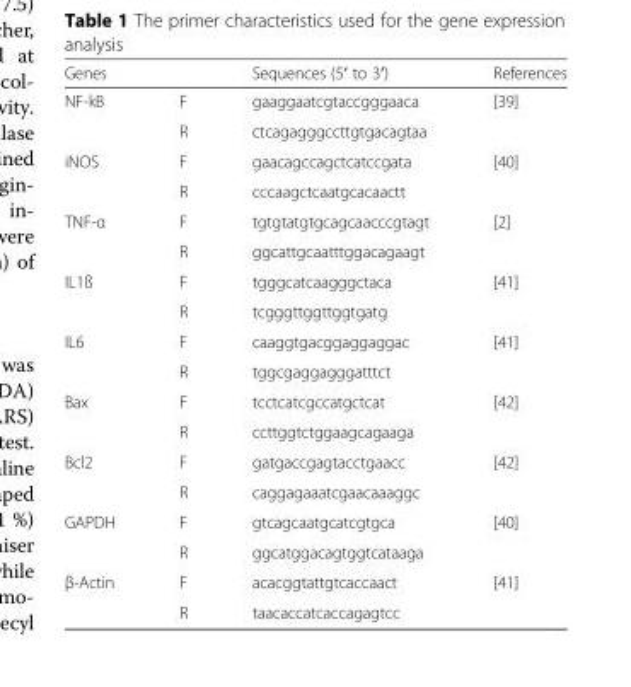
<table><thead><tr><td>Genes</td><td></td><td>Sequences (5′ to 3′)</td><td>References</td></tr></thead><tbody><tr><td rowspan="2">NF-kB</td><td>F</td><td>gaaggaatcgtaccgggaaca</td><td rowspan="2">[39]</td></tr><tr><td>R</td><td>ctcagagggccttgtgacagtaa</td></tr><tr><td rowspan="2">iNOS</td><td>F</td><td>gaacagccagctcatccgata</td><td rowspan="2">[40]</td></tr><tr><td>R</td><td>cccaagctcaatgcacaactt</td></tr><tr><td rowspan="2">TNF-α</td><td>F</td><td>tgtgtatgtgcagcaacccgtagt</td><td rowspan="2">[2]</td></tr><tr><td>R</td><td>ggcattgcaatttggacagaagt</td></tr><tr><td rowspan="2">IL1ß</td><td>F</td><td>tgggcatcaagggctaca</td><td rowspan="2">[41]</td></tr><tr><td>R</td><td>tcgggttggttggtgatg</td></tr><tr><td rowspan="2">IL6</td><td>F</td><td>caaggtgacggaggaggac</td><td rowspan="2">[41]</td></tr><tr><td>R</td><td>tggcgaggagggatttct</td></tr><tr><td rowspan="2">Bax</td><td>F</td><td>tcctcatcgccatgctcat</td><td rowspan="2">[42]</td></tr><tr><td>R</td><td>ccttggtctggaagcagaaga</td></tr><tr><td rowspan="2">Bcl2</td><td>F</td><td>gatgaccgagtacctgaacc</td><td rowspan="2">[42]</td></tr><tr><td>R</td><td>caggagaaatcgaacaaaggc</td></tr><tr><td rowspan="2">GAPDH</td><td>F</td><td>gtcagcaatgcatcgtgca</td><td rowspan="2">[40]</td></tr><tr><td>R</td><td>ggcatggacagtggtcataaga</td></tr><tr><td rowspan="2">β-Actin</td><td>F</td><td>acacggtattgtcaccaact</td><td rowspan="2">[41]</td></tr><tr><td>R</td><td>taacaccatcaccagagtcc</td></tr></tbody></table>